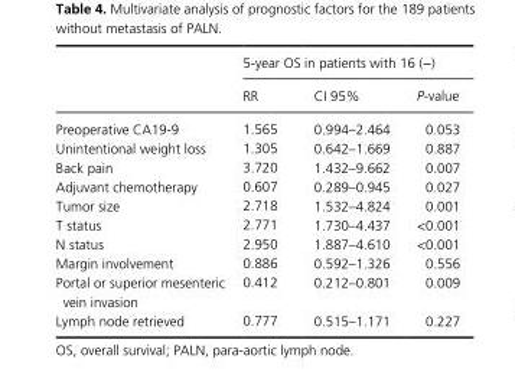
<table><thead><tr><td rowspan="2"></td><td colspan="3">5- year OS in patients with 16 (−)</td></tr><tr><td>RR</td><td>CI 95%</td><td>P- value</td></tr></thead><tbody><tr><td>Preoperative CA19- 9</td><td>1.565</td><td>0.994–2.464</td><td>0.053</td></tr><tr><td>Unintentional weight loss</td><td>1.305</td><td>0.642–1.669</td><td>0.887</td></tr><tr><td>Back pain</td><td>3.720</td><td>1.432–9.662</td><td>0.007</td></tr><tr><td>Adjuvant chemotherapy</td><td>0.607</td><td>0.289–0.945</td><td>0.027</td></tr><tr><td>Tumor size</td><td>2.718</td><td>1.532–4.824</td><td>0.001</td></tr><tr><td>T status</td><td>2.771</td><td>1.730–4.437</td><td>&lt;0.001</td></tr><tr><td>N status</td><td>2.950</td><td>1.887–4.610</td><td>&lt;0.001</td></tr><tr><td>Margin involvement</td><td>0.886</td><td>0.592–1.326</td><td>0.556</td></tr><tr><td>Portal or superior mesenteric vein invasion</td><td>0.412</td><td>0.212–0.801</td><td>0.009</td></tr><tr><td>Lymph node retrieved</td><td>0.777</td><td>0.515–1.171</td><td>0.227</td></tr></tbody></table>